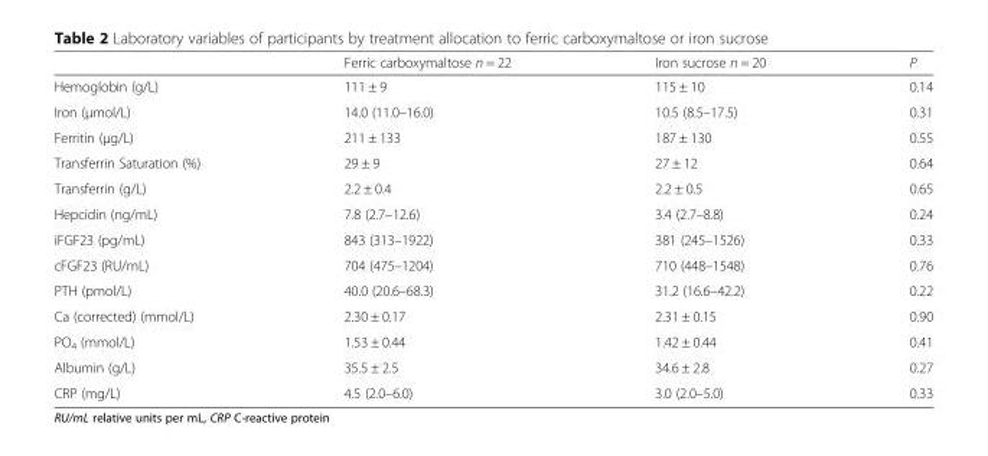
<table><thead><tr><td></td><td>Ferric carboxymaltose n = 22</td><td>Iron sucrose n = 20</td><td>P</td></tr></thead><tbody><tr><td>Hemoglobin (g/L)</td><td>111 ± 9</td><td>115 ± 10</td><td>0.14</td></tr><tr><td>Iron (μmol/L)</td><td>14.0 (11.0–16.0)</td><td>10.5 (8.5–17.5)</td><td>0.31</td></tr><tr><td>Ferritin (μg/L)</td><td>211 ± 133</td><td>187 ± 130</td><td>0.55</td></tr><tr><td>Transferrin Saturation (%)</td><td>29 ± 9</td><td>27 ± 12</td><td>0.64</td></tr><tr><td>Transferrin (g/L)</td><td>2.2 ± 0.4</td><td>2.2 ± 0.5</td><td>0.65</td></tr><tr><td>Hepcidin (ng/mL)</td><td>7.8 (2.7–12.6)</td><td>3.4 (2.7–8.8)</td><td>0.24</td></tr><tr><td>iFGF23 (pg/mL)</td><td>843 (313–1922)</td><td>381 (245–1526)</td><td>0.33</td></tr><tr><td>cFGF23 (RU/mL)</td><td>704 (475–1204)</td><td>710 (448–1548)</td><td>0.76</td></tr><tr><td>PTH (pmol/L)</td><td>40.0 (20.6–68.3)</td><td>31.2 (16.6–42.2)</td><td>0.22</td></tr><tr><td>Ca (corrected) (mmol/L)</td><td>2.30 ± 0.17</td><td>2.31 ± 0.15</td><td>0.90</td></tr><tr><td>PO<sub>4</sub> (mmol/L)</td><td>1.53 ± 0.44</td><td>1.42 ± 0.44</td><td>0.41</td></tr><tr><td>Albumin (g/L)</td><td>35.5 ± 2.5</td><td>34.6 ± 2.8</td><td>0.27</td></tr><tr><td>CRP (mg/L)</td><td>4.5 (2.0–6.0)</td><td>3.0 (2.0–5.0)</td><td>0.33</td></tr></tbody></table>